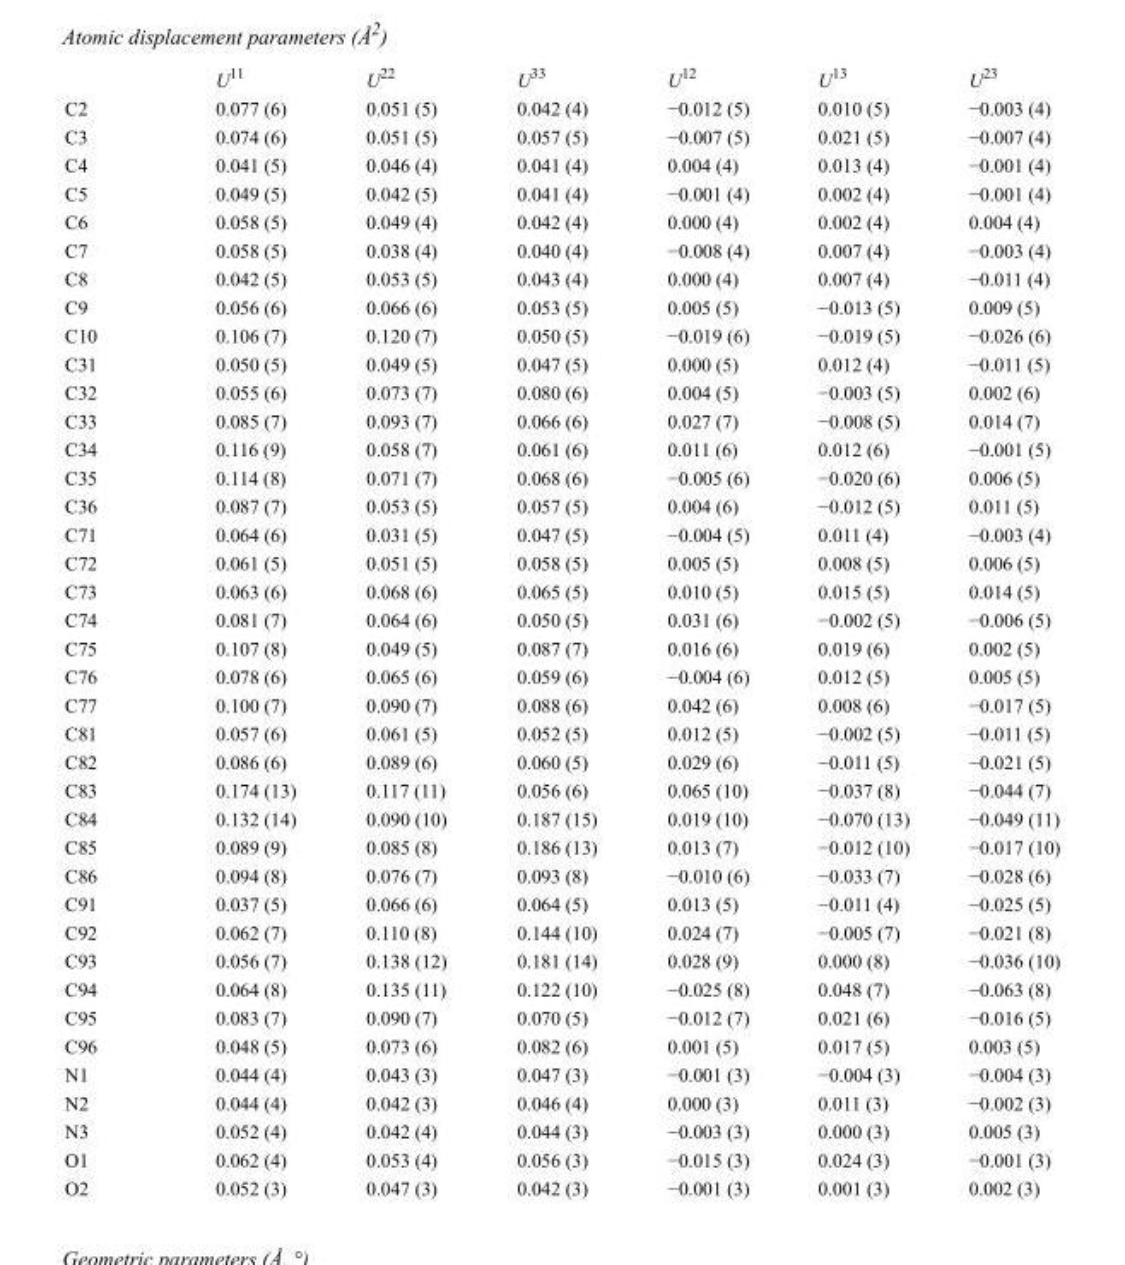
<table><thead><tr><td></td><td>U<sup>11</sup></td><td>U<sup>22</sup></td><td>U<sup>33</sup></td><td>U<sup>12</sup></td><td>U<sup>13</sup></td><td>U<sup>23</sup></td></tr></thead><tbody><tr><td>C2</td><td>0.077 (6)</td><td>0.051 (5)</td><td>0.042 (4)</td><td>−0.012 (5)</td><td>0.010 (5)</td><td>−0.003 (4)</td></tr><tr><td>C3</td><td>0.074 (6)</td><td>0.051 (5)</td><td>0.057 (5)</td><td>−0.007 (5)</td><td>0.021 (5)</td><td>−0.007 (4)</td></tr><tr><td>C4</td><td>0.041 (5)</td><td>0.046 (4)</td><td>0.041 (4)</td><td>0.004 (4)</td><td>0.013 (4)</td><td>−0.001 (4)</td></tr><tr><td>C5</td><td>0.049 (5)</td><td>0.042 (5)</td><td>0.041 (4)</td><td>−0.001 (4)</td><td>0.002 (4)</td><td>−0.001 (4)</td></tr><tr><td>C6</td><td>0.058 (5)</td><td>0.049 (4)</td><td>0.042 (4)</td><td>0.000 (4)</td><td>0.002 (4)</td><td>0.004 (4)</td></tr><tr><td>C7</td><td>0.058 (5)</td><td>0.038 (4)</td><td>0.040 (4)</td><td>−0.008 (4)</td><td>0.007 (4)</td><td>−0.003 (4)</td></tr><tr><td>C8</td><td>0.042 (5)</td><td>0.053 (5)</td><td>0.043 (4)</td><td>0.000 (4)</td><td>0.007 (4)</td><td>−0.011 (4)</td></tr><tr><td>C9</td><td>0.056 (6)</td><td>0.066 (6)</td><td>0.053 (5)</td><td>0.005 (5)</td><td>−0.013 (5)</td><td>0.009 (5)</td></tr><tr><td>C10</td><td>0.106 (7)</td><td>0.120 (7)</td><td>0.050 (5)</td><td>−0.019 (6)</td><td>−0.019 (5)</td><td>−0.026 (6)</td></tr><tr><td>C31</td><td>0.050 (5)</td><td>0.049 (5)</td><td>0.047 (5)</td><td>0.000 (5)</td><td>0.012 (4)</td><td>−0.011 (5)</td></tr><tr><td>C32</td><td>0.055 (6)</td><td>0.073 (7)</td><td>0.080 (6)</td><td>0.004 (5)</td><td>−0.003 (5)</td><td>0.002 (6)</td></tr><tr><td>C33</td><td>0.085 (7)</td><td>0.093 (7)</td><td>0.066 (6)</td><td>0.027 (7)</td><td>−0.008 (5)</td><td>0.014 (7)</td></tr><tr><td>C34</td><td>0.116 (9)</td><td>0.058 (7)</td><td>0.061 (6)</td><td>0.011 (6)</td><td>0.012 (6)</td><td>−0.001 (5)</td></tr><tr><td>C35</td><td>0.114 (8)</td><td>0.071 (7)</td><td>0.068 (6)</td><td>−0.005 (6)</td><td>−0.020 (6)</td><td>0.006 (5)</td></tr><tr><td>C36</td><td>0.087 (7)</td><td>0.053 (5)</td><td>0.057 (5)</td><td>0.004 (6)</td><td>−0.012 (5)</td><td>0.011 (5)</td></tr><tr><td>C71</td><td>0.064 (6)</td><td>0.031 (5)</td><td>0.047 (5)</td><td>−0.004 (5)</td><td>0.011 (4)</td><td>−0.003 (4)</td></tr><tr><td>C72</td><td>0.061 (5)</td><td>0.051 (5)</td><td>0.058 (5)</td><td>0.005 (5)</td><td>0.008 (5)</td><td>0.006 (5)</td></tr><tr><td>C73</td><td>0.063 (6)</td><td>0.068 (6)</td><td>0.065 (5)</td><td>0.010 (5)</td><td>0.015 (5)</td><td>0.014 (5)</td></tr><tr><td>C74</td><td>0.081 (7)</td><td>0.064 (6)</td><td>0.050 (5)</td><td>0.031 (6)</td><td>−0.002 (5)</td><td>−0.006 (5)</td></tr><tr><td>C75</td><td>0.107 (8)</td><td>0.049 (5)</td><td>0.087 (7)</td><td>0.016 (6)</td><td>0.019 (6)</td><td>0.002 (5)</td></tr><tr><td>C76</td><td>0.078 (6)</td><td>0.065 (6)</td><td>0.059 (6)</td><td>−0.004 (6)</td><td>0.012 (5)</td><td>0.005 (5)</td></tr><tr><td>C77</td><td>0.100 (7)</td><td>0.090 (7)</td><td>0.088 (6)</td><td>0.042 (6)</td><td>0.008 (6)</td><td>−0.017 (5)</td></tr><tr><td>C81</td><td>0.057 (6)</td><td>0.061 (5)</td><td>0.052 (5)</td><td>0.012 (5)</td><td>−0.002 (5)</td><td>−0.011 (5)</td></tr><tr><td>C82</td><td>0.086 (6)</td><td>0.089 (6)</td><td>0.060 (5)</td><td>0.029 (6)</td><td>−0.011 (5)</td><td>−0.021 (5)</td></tr><tr><td>C83</td><td>0.174 (13)</td><td>0.117 (11)</td><td>0.056 (6)</td><td>0.065 (10)</td><td>−0.037 (8)</td><td>−0.044 (7)</td></tr><tr><td>C84</td><td>0.132 (14)</td><td>0.090 (10)</td><td>0.187 (15)</td><td>0.019 (10)</td><td>−0.070 (13)</td><td>−0.049 (11)</td></tr><tr><td>C85</td><td>0.089 (9)</td><td>0.085 (8)</td><td>0.186 (13)</td><td>0.013 (7)</td><td>−0.012 (10)</td><td>−0.017 (10)</td></tr><tr><td>C86</td><td>0.094 (8)</td><td>0.076 (7)</td><td>0.093 (8)</td><td>−0.010 (6)</td><td>−0.033 (7)</td><td>−0.028 (6)</td></tr><tr><td>C91</td><td>0.037 (5)</td><td>0.066 (6)</td><td>0.064 (5)</td><td>0.013 (5)</td><td>−0.011 (4)</td><td>−0.025 (5)</td></tr><tr><td>C92</td><td>0.062 (7)</td><td>0.110 (8)</td><td>0.144 (10)</td><td>0.024 (7)</td><td>−0.005 (7)</td><td>−0.021 (8)</td></tr><tr><td>C93</td><td>0.056 (7)</td><td>0.138 (12)</td><td>0.181 (14)</td><td>0.028 (9)</td><td>0.000 (8)</td><td>−0.036 (10)</td></tr><tr><td>C94</td><td>0.064 (8)</td><td>0.135 (11)</td><td>0.122 (10)</td><td>−0.025 (8)</td><td>0.048 (7)</td><td>−0.063 (8)</td></tr><tr><td>C95</td><td>0.083 (7)</td><td>0.090 (7)</td><td>0.070 (5)</td><td>−0.012 (7)</td><td>0.021 (6)</td><td>−0.016 (5)</td></tr><tr><td>C96</td><td>0.048 (5)</td><td>0.073 (6)</td><td>0.082 (6)</td><td>0.001 (5)</td><td>0.017 (5)</td><td>0.003 (5)</td></tr><tr><td>N1</td><td>0.044 (4)</td><td>0.043 (3)</td><td>0.047 (3)</td><td>−0.001 (3)</td><td>−0.004 (3)</td><td>−0.004 (3)</td></tr><tr><td>N2</td><td>0.044 (4)</td><td>0.042 (3)</td><td>0.046 (4)</td><td>0.000 (3)</td><td>0.011 (3)</td><td>−0.002 (3)</td></tr><tr><td>N3</td><td>0.052 (4)</td><td>0.042 (4)</td><td>0.044 (3)</td><td>−0.003 (3)</td><td>0.000 (3)</td><td>0.005 (3)</td></tr><tr><td>O1</td><td>0.062 (4)</td><td>0.053 (4)</td><td>0.056 (3)</td><td>−0.015 (3)</td><td>0.024 (3)</td><td>−0.001 (3)</td></tr><tr><td>O2</td><td>0.052 (3)</td><td>0.047 (3)</td><td>0.042 (3)</td><td>−0.001 (3)</td><td>0.001 (3)</td><td>0.002 (3)</td></tr></tbody></table>